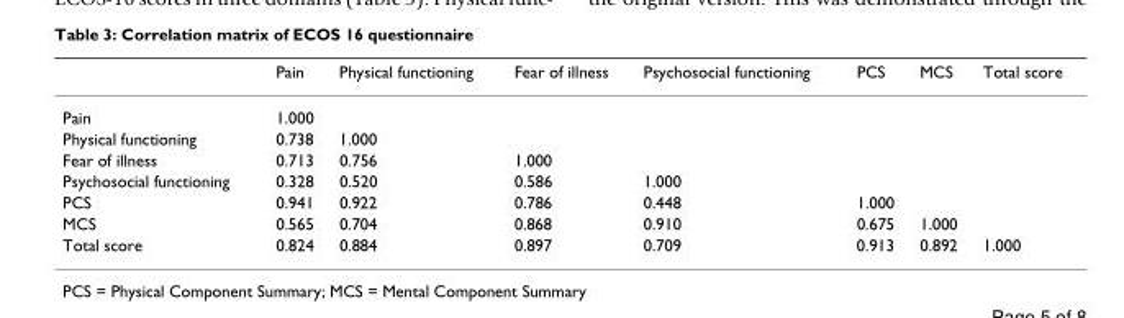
<table><thead><tr><td></td><td>Pain</td><td>Physical functioning</td><td>Fear of illness</td><td>Psychosocial functioning</td><td>PCS</td><td>MCS</td><td>Total score</td></tr></thead><tbody><tr><td>Pain</td><td>1.000</td><td></td><td></td><td></td><td></td><td></td><td></td></tr><tr><td>Physical functioning</td><td>0.738</td><td>1.000</td><td></td><td></td><td></td><td></td><td></td></tr><tr><td>Fear of illness</td><td>0.713</td><td>0.756</td><td>1.000</td><td></td><td></td><td></td><td></td></tr><tr><td>Psychosocial functioning</td><td>0.328</td><td>0.520</td><td>0.586</td><td>1.000</td><td></td><td></td><td></td></tr><tr><td>PCS</td><td>0.941</td><td>0.922</td><td>0.786</td><td>0.448</td><td>1.000</td><td></td><td></td></tr><tr><td>MCS</td><td>0.565</td><td>0.704</td><td>0.868</td><td>0.910</td><td>0.675</td><td>1.000</td><td></td></tr><tr><td>Total score</td><td>0.824</td><td>0.884</td><td>0.897</td><td>0.709</td><td>0.913</td><td>0.892</td><td>1.000</td></tr></tbody></table>